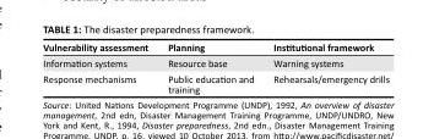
<table><thead><tr><td>Vulnerability assessment</td><td>Planning</td><td>Institutional framework</td></tr></thead><tbody><tr><td>Information systems</td><td>Resource base</td><td>Warning systems</td></tr><tr><td>Response mechanisms</td><td>Public education and training</td><td>Rehearsals/emergency drills</td></tr></tbody></table>